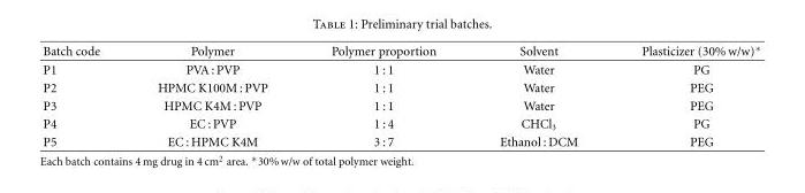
<table><thead><tr><td>Batch code</td><td>Polymer</td><td>Polymer proportion</td><td>Solvent</td><td>Plasticizer (30% w/w)∗</td></tr></thead><tbody><tr><td>P1</td><td>PVA : PVP</td><td>1 : 1</td><td>Water</td><td>PG</td></tr><tr><td>P2</td><td>HPMC K100M : PVP</td><td>1 : 1</td><td>Water</td><td>PEG</td></tr><tr><td>P3</td><td>HPMC K4M : PVP</td><td>1 : 1</td><td>Water</td><td>PEG</td></tr><tr><td>P4</td><td>EC : PVP</td><td>1 : 4</td><td>CHCl<sub>3</sub></td><td>PG</td></tr><tr><td>P5</td><td>EC : HPMC K4M</td><td>3 : 7</td><td>Ethanol : DCM</td><td>PEG</td></tr></tbody></table>